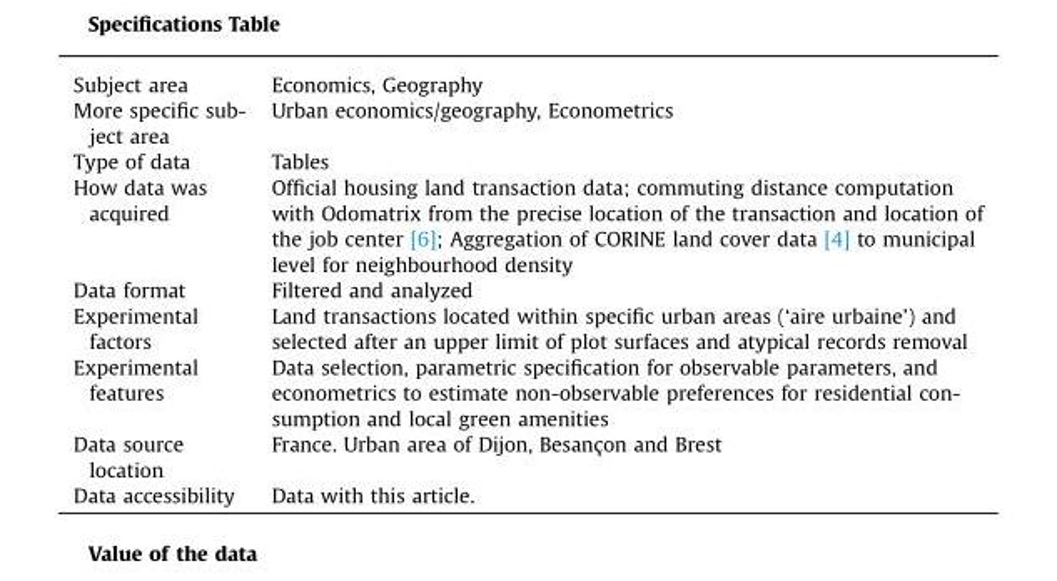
<table><tbody><tr><td>Subject area</td><td>Economics, Geography</td></tr><tr><td>More specific sub- ject area</td><td>Urban economics/geography, Econometrics</td></tr><tr><td>Type of data</td><td>Tables</td></tr><tr><td>How data was acquired</td><td>Official housing land transaction data; commuting distance computation with Odomatrix from the precise location of the transaction and location of the job center [6]; Aggregation of CORINE land cover data [4] to municipal level for neighbourhood density</td></tr><tr><td>Data format</td><td>Filtered and analyzed</td></tr><tr><td>Experimental factors</td><td>Land transactions located within specific urban areas (‘aire urbaine’) and selected after an upper limit of plot surfaces and atypical records removal</td></tr><tr><td>Experimental features</td><td>Data selection, parametric specification for observable parameters, and econometrics to estimate non-observable preferences for residential con- sumption and local green amenities</td></tr><tr><td>Data source location</td><td>France. Urban area of Dijon, Besançon and Brest</td></tr><tr><td>Data accessibility</td><td>Data with this article.</td></tr></tbody></table>